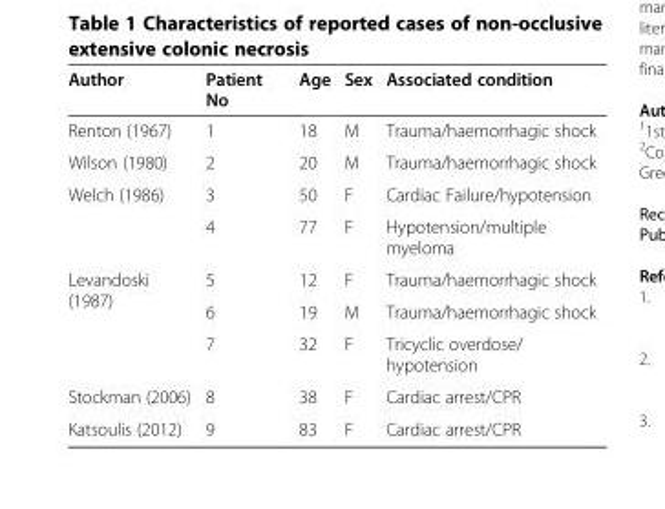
<table><thead><tr><td>Author</td><td>Patient No</td><td>Age</td><td>Sex</td><td>Associated condition</td></tr></thead><tbody><tr><td>Renton (1967)</td><td>1</td><td>18</td><td>M</td><td>Trauma/haemorrhagic shock</td></tr><tr><td>Wilson (1980)</td><td>2</td><td>20</td><td>M</td><td>Trauma/haemorrhagic shock</td></tr><tr><td rowspan="2">Welch (1986)</td><td>3</td><td>50</td><td>F</td><td>Cardiac Failure/hypotension</td></tr><tr><td>4</td><td>77</td><td>F</td><td>Hypotension/multiple myeloma</td></tr><tr><td rowspan="3">Levandoski (1987)</td><td>5</td><td>12</td><td>F</td><td>Trauma/haemorrhagic shock</td></tr><tr><td>6</td><td>19</td><td>M</td><td>Trauma/haemorrhagic shock</td></tr><tr><td>7</td><td>32</td><td>F</td><td>Tricyclic overdose/ hypotension</td></tr><tr><td>Stockman (2006)</td><td>8</td><td>38</td><td>F</td><td>Cardiac arrest/CPR</td></tr><tr><td>Katsoulis (2012)</td><td>9</td><td>83</td><td>F</td><td>Cardiac arrest/CPR</td></tr></tbody></table>